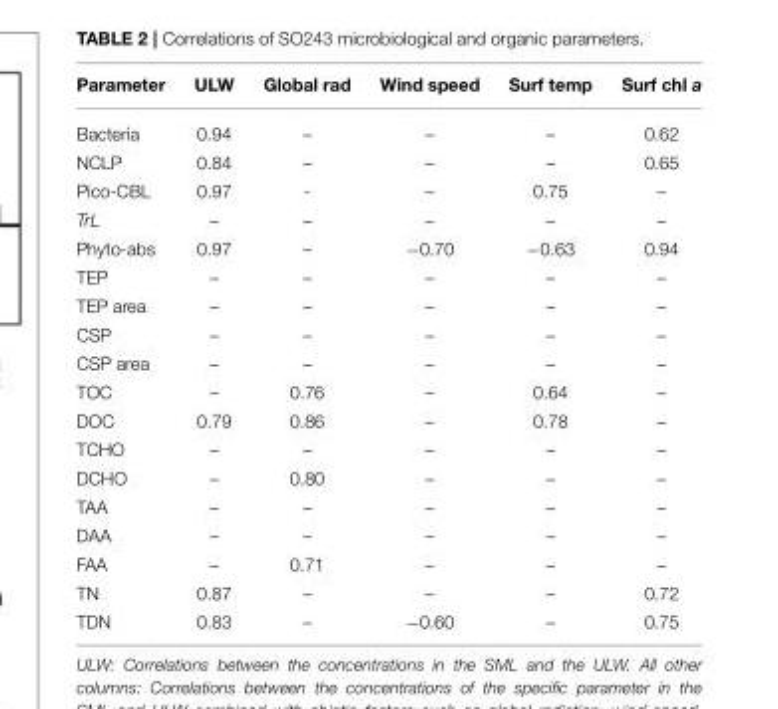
<table><thead><tr><td>Parameter</td><td>ULW</td><td>Global rad</td><td>Wind speed</td><td>Surf temp</td><td>Surf chl a</td></tr></thead><tbody><tr><td>Bacteria</td><td>0.94</td><td>–</td><td>–</td><td>–</td><td>0.62</td></tr><tr><td>NCLP</td><td>0.84</td><td>–</td><td>–</td><td>–</td><td>0.65</td></tr><tr><td>Pico-CBL</td><td>0.97</td><td>-</td><td>–</td><td>0.75</td><td>–</td></tr><tr><td>TrL</td><td>–</td><td>–</td><td>–</td><td>–</td><td>–</td></tr><tr><td>Phyto-abs</td><td>0.97</td><td>–</td><td>−0.70</td><td>−0.63</td><td>0.94</td></tr><tr><td>TEP</td><td>–</td><td>–</td><td>–</td><td>–</td><td>–</td></tr><tr><td>TEP area</td><td>–</td><td>–</td><td>–</td><td>–</td><td>–</td></tr><tr><td>CSP</td><td>–</td><td>–</td><td>–</td><td>–</td><td>–</td></tr><tr><td>CSP area</td><td>–</td><td>–</td><td>–</td><td>–</td><td>–</td></tr><tr><td>TOC</td><td>–</td><td>0.76</td><td>–</td><td>0.64</td><td>–</td></tr><tr><td>DOC</td><td>0.79</td><td>0.86</td><td>–</td><td>0.78</td><td>–</td></tr><tr><td>TCHO</td><td>–</td><td>–</td><td>–</td><td>–</td><td>–</td></tr><tr><td>DCHO</td><td>–</td><td>0.80</td><td>–</td><td>–</td><td>–</td></tr><tr><td>TAA</td><td>–</td><td>–</td><td>–</td><td>–</td><td>–</td></tr><tr><td>DAA</td><td>–</td><td>–</td><td>–</td><td>–</td><td>–</td></tr><tr><td>FAA</td><td>–</td><td>0.71</td><td>–</td><td>–</td><td>–</td></tr><tr><td>TN</td><td>0.87</td><td>–</td><td>–</td><td>–</td><td>0.72</td></tr><tr><td>TDN</td><td>0.83</td><td>–</td><td>−0.60</td><td>–</td><td>0.75</td></tr></tbody></table>